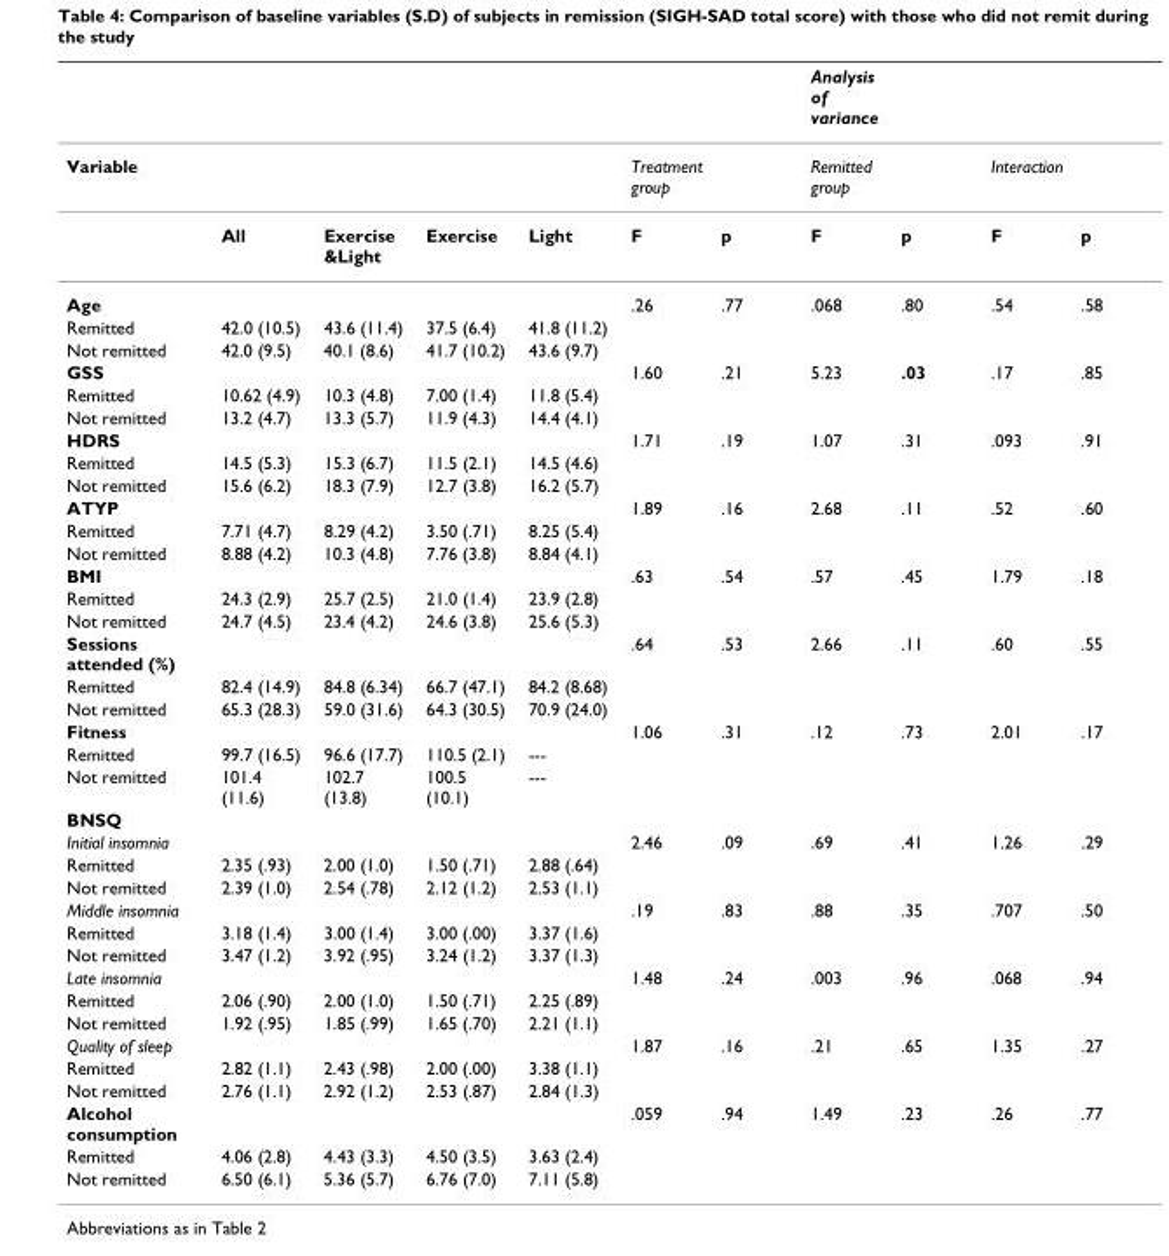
<table><thead><tr><td></td><td></td><td></td><td></td><td></td><td></td><td></td><td>Analysis of variance</td><td></td><td></td><td></td></tr></thead><tbody><tr><td rowspan="2">Variable</td><td></td><td></td><td></td><td></td><td>Treatment group</td><td></td><td>Remitted group</td><td></td><td>Interaction</td><td></td></tr><tr><td>All</td><td>Exercise &amp;Light</td><td>Exercise</td><td>Light</td><td>F</td><td>p</td><td>F</td><td>p</td><td>F</td><td>p</td></tr><tr><td>Age</td><td></td><td></td><td></td><td></td><td>.26</td><td>.77</td><td>.068</td><td>.80</td><td>.54</td><td>.58</td></tr><tr><td>Remitted</td><td>42.0 (10.5)</td><td>43.6 (11.4)</td><td>37.5 (6.4)</td><td>41.8 (11.2)</td><td></td><td></td><td></td><td></td><td></td><td></td></tr><tr><td>Not remitted</td><td>42.0 (9.5)</td><td>40.1 (8.6)</td><td>41.7 (10.2)</td><td>43.6 (9.7)</td><td></td><td></td><td></td><td></td><td></td><td></td></tr><tr><td>GSS</td><td></td><td></td><td></td><td></td><td>1.60</td><td>.21</td><td>5.23</td><td>.03</td><td>.17</td><td>.85</td></tr><tr><td>Remitted</td><td>10.62 (4.9)</td><td>10.3 (4.8)</td><td>7.00 (1.4)</td><td>11.8 (5.4)</td><td></td><td></td><td></td><td></td><td></td><td></td></tr><tr><td>Not remitted</td><td>13.2 (4.7)</td><td>13.3 (5.7)</td><td>11.9 (4.3)</td><td>14.4 (4.1)</td><td></td><td></td><td></td><td></td><td></td><td></td></tr><tr><td>HDRS</td><td></td><td></td><td></td><td></td><td>1.71</td><td>.19</td><td>1.07</td><td>.31</td><td>.093</td><td>.91</td></tr><tr><td>Remitted</td><td>14.5 (5.3)</td><td>15.3 (6.7)</td><td>11.5 (2.1)</td><td>14.5 (4.6)</td><td></td><td></td><td></td><td></td><td></td><td></td></tr><tr><td>Not remitted</td><td>15.6 (6.2)</td><td>18.3 (7.9)</td><td>12.7 (3.8)</td><td>16.2 (5.7)</td><td></td><td></td><td></td><td></td><td></td><td></td></tr><tr><td>ATYP</td><td></td><td></td><td></td><td></td><td>1.89</td><td>.16</td><td>2.68</td><td>.11</td><td>.52</td><td>.60</td></tr><tr><td>Remitted</td><td>7.71 (4.7)</td><td>8.29 (4.2)</td><td>3.50 (.71)</td><td>8.25 (5.4)</td><td></td><td></td><td></td><td></td><td></td><td></td></tr><tr><td>Not remitted</td><td>8.88 (4.2)</td><td>10.3 (4.8)</td><td>7.76 (3.8)</td><td>8.84 (4.1)</td><td></td><td></td><td></td><td></td><td></td><td></td></tr><tr><td>BMI</td><td></td><td></td><td></td><td></td><td>.63</td><td>.54</td><td>.57</td><td>.45</td><td>1.79</td><td>.18</td></tr><tr><td>Remitted</td><td>24.3 (2.9)</td><td>25.7 (2.5)</td><td>21.0 (1.4)</td><td>23.9 (2.8)</td><td></td><td></td><td></td><td></td><td></td><td></td></tr><tr><td>Not remitted</td><td>24.7 (4.5)</td><td>23.4 (4.2)</td><td>24.6 (3.8)</td><td>25.6 (5.3)</td><td></td><td></td><td></td><td></td><td></td><td></td></tr><tr><td>Sessions attended (%)</td><td></td><td></td><td></td><td></td><td>.64</td><td>.53</td><td>2.66</td><td>.11</td><td>.60</td><td>.55</td></tr><tr><td>Remitted</td><td>82.4 (14.9)</td><td>84.8 (6.34)</td><td>66.7 (47.1)</td><td>84.2 (8.68)</td><td></td><td></td><td></td><td></td><td></td><td></td></tr><tr><td>Not remitted</td><td>65.3 (28.3)</td><td>59.0 (31.6)</td><td>64.3 (30.5)</td><td>70.9 (24.0)</td><td></td><td></td><td></td><td></td><td></td><td></td></tr><tr><td>Fitness</td><td></td><td></td><td></td><td></td><td>1.06</td><td>.31</td><td>.12</td><td>.73</td><td>2.01</td><td>.17</td></tr><tr><td>Remitted</td><td>99.7 (16.5)</td><td>96.6 (17.7)</td><td>110.5 (2.1)</td><td>---</td><td></td><td></td><td></td><td></td><td></td><td></td></tr><tr><td>Not remitted</td><td>101.4 (11.6)</td><td>102.7 (13.8)</td><td>100.5 (10.1)</td><td>---</td><td></td><td></td><td></td><td></td><td></td><td></td></tr><tr><td colspan="11">BNSQ</td></tr><tr><td>Initial insomnia</td><td></td><td></td><td></td><td></td><td>2.46</td><td>.09</td><td>.69</td><td>.41</td><td>1.26</td><td>.29</td></tr><tr><td>Remitted</td><td>2.35 (.93)</td><td>2.00 (1.0)</td><td>1.50 (.71)</td><td>2.88 (.64)</td><td></td><td></td><td></td><td></td><td></td><td></td></tr><tr><td>Not remitted</td><td>2.39 (1.0)</td><td>2.54 (.78)</td><td>2.12 (1.2)</td><td>2.53 (1.1)</td><td></td><td></td><td></td><td></td><td></td><td></td></tr><tr><td>Middle insomnia</td><td></td><td></td><td></td><td></td><td>.19</td><td>.83</td><td>.88</td><td>.35</td><td>.707</td><td>.50</td></tr><tr><td>Remitted</td><td>3.18 (1.4)</td><td>3.00 (1.4)</td><td>3.00 (.00)</td><td>3.37 (1.6)</td><td></td><td></td><td></td><td></td><td></td><td></td></tr><tr><td>Not remitted</td><td>3.47 (1.2)</td><td>3.92 (.95)</td><td>3.24 (1.2)</td><td>3.37 (1.3)</td><td></td><td></td><td></td><td></td><td></td><td></td></tr><tr><td>Late insomnia</td><td></td><td></td><td></td><td></td><td>1.48</td><td>.24</td><td>.003</td><td>.96</td><td>.068</td><td>.94</td></tr><tr><td>Remitted</td><td>2.06 (.90)</td><td>2.00 (1.0)</td><td>1.50 (.71)</td><td>2.25 (.89)</td><td></td><td></td><td></td><td></td><td></td><td></td></tr><tr><td>Not remitted</td><td>1.92 (.95)</td><td>1.85 (.99)</td><td>1.65 (.70)</td><td>2.21 (1.1)</td><td></td><td></td><td></td><td></td><td></td><td></td></tr><tr><td>Quality of sleep</td><td></td><td></td><td></td><td></td><td>1.87</td><td>.16</td><td>.21</td><td>.65</td><td>1.35</td><td>.27</td></tr><tr><td>Remitted</td><td>2.82 (1.1)</td><td>2.43 (.98)</td><td>2.00 (.00)</td><td>3.38 (1.1)</td><td></td><td></td><td></td><td></td><td></td><td></td></tr><tr><td>Not remitted</td><td>2.76 (1.1)</td><td>2.92 (1.2)</td><td>2.53 (.87)</td><td>2.84 (1.3)</td><td></td><td></td><td></td><td></td><td></td><td></td></tr><tr><td>Alcohol consumption</td><td></td><td></td><td></td><td></td><td>.059</td><td>.94</td><td>1.49</td><td>.23</td><td>.26</td><td>.77</td></tr><tr><td>Remitted</td><td>4.06 (2.8)</td><td>4.43 (3.3)</td><td>4.50 (3.5)</td><td>3.63 (2.4)</td><td></td><td></td><td></td><td></td><td></td><td></td></tr><tr><td>Not remitted</td><td>6.50 (6.1)</td><td>5.36 (5.7)</td><td>6.76 (7.0)</td><td>7.11 (5.8)</td><td></td><td></td><td></td><td></td><td></td><td></td></tr></tbody></table>